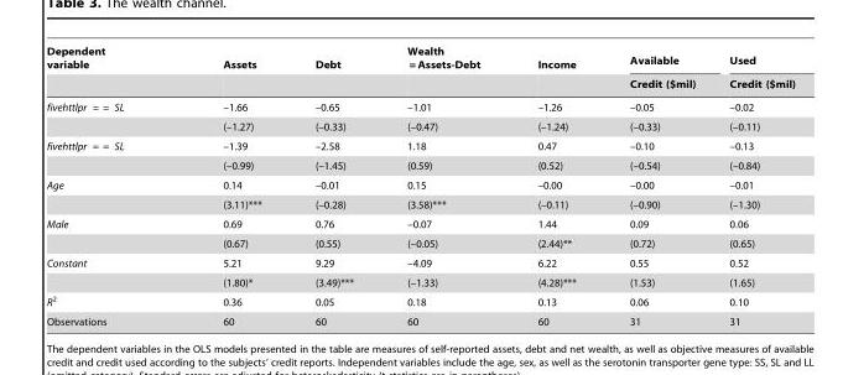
<table><thead><tr><td rowspan="2">Dependent variable</td><td rowspan="2">Assets</td><td rowspan="2">Debt</td><td rowspan="2">Wealth = Assets-Debt</td><td rowspan="2">Income</td><td rowspan="2">Available Credit ($mil)</td><td rowspan="2">Used Credit ($mil)</td></tr><tr></tr></thead><tbody><tr><td rowspan="2">fivehttlpr = = SL</td><td>–1.66</td><td>–0.65</td><td>–1.01</td><td>–1.26</td><td>–0.05</td><td>–0.02</td></tr><tr><td>(–1.27)</td><td>(–0.33)</td><td>(–0.47)</td><td>(–1.24)</td><td>(–0.33)</td><td>(–0.11)</td></tr><tr><td rowspan="2">fivehttlpr = = SL</td><td>–1.39</td><td>–2.58</td><td>1.18</td><td>0.47</td><td>–0.10</td><td>–0.13</td></tr><tr><td>(–0.99)</td><td>(–1.45)</td><td>(0.59)</td><td>(0.52)</td><td>(–0.54)</td><td>(–0.84)</td></tr><tr><td rowspan="2">Age</td><td>0.14</td><td>–0.01</td><td>0.15</td><td>–0.00</td><td>–0.00</td><td>–0.01</td></tr><tr><td>(3.11)***</td><td>(–0.28)</td><td>(3.58)***</td><td>(–0.11)</td><td>(–0.90)</td><td>(–1.30)</td></tr><tr><td rowspan="2">Male</td><td>0.69</td><td>0.76</td><td>–0.07</td><td>1.44</td><td>0.09</td><td>0.06</td></tr><tr><td>(0.67)</td><td>(0.55)</td><td>(–0.05)</td><td>(2.44)**</td><td>(0.72)</td><td>(0.65)</td></tr><tr><td rowspan="2">Constant</td><td>5.21</td><td>9.29</td><td>–4.09</td><td>6.22</td><td>0.55</td><td>0.52</td></tr><tr><td>(1.80)*</td><td>(3.49)***</td><td>(–1.33)</td><td>(4.28)***</td><td>(1.53)</td><td>(1.65)</td></tr><tr><td>R<sup>2</sup></td><td>0.36</td><td>0.05</td><td>0.18</td><td>0.13</td><td>0.06</td><td>0.10</td></tr><tr><td>Observations</td><td>60</td><td>60</td><td>60</td><td>60</td><td>31</td><td>31</td></tr></tbody></table>